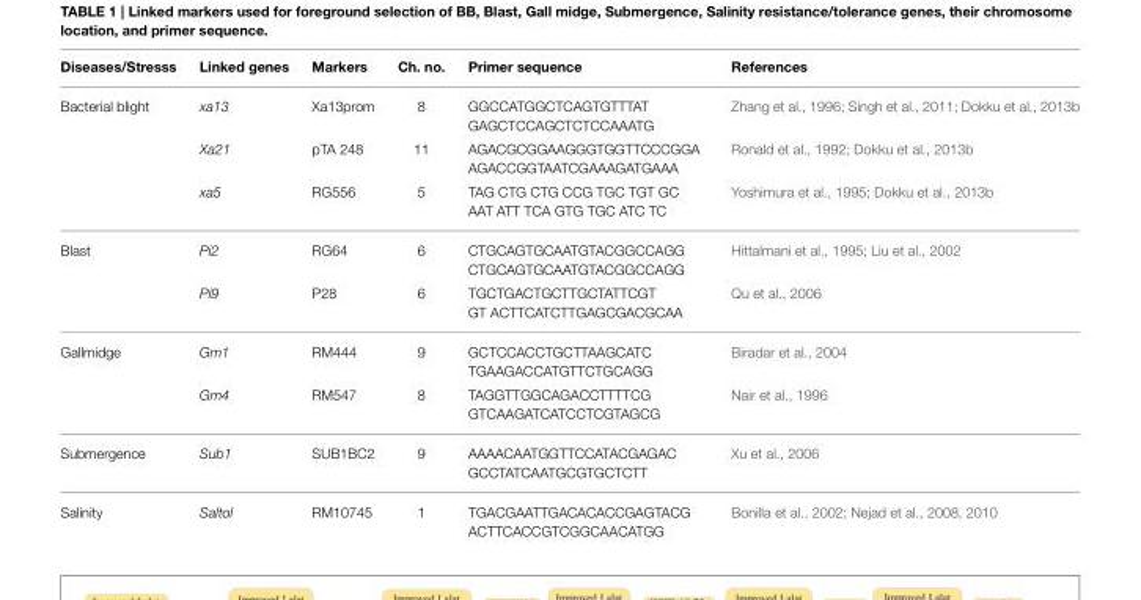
<table><thead><tr><td>Diseases/Stresss</td><td>Linked genes</td><td>Markers</td><td>Ch. no.</td><td>Primer sequence</td><td>References</td></tr></thead><tbody><tr><td rowspan="3">Bacterial blight</td><td>xa13</td><td>Xa13prom</td><td>8</td><td>GGCCATGGCTCAGTGTTTAT GAGCTCCAGCTCTCCAAATG</td><td>Zhang et al., 1996; Singh et al., 2011; Dokku et al., 2013b</td></tr><tr><td>Xa21</td><td>pTA 248</td><td>11</td><td>AGACGCGGAAGGGTGGTTCCCGGA AGACCGGTAATCGAAAGATGAAA</td><td>Ronald et al., 1992; Dokku et al., 2013b</td></tr><tr><td>xa5</td><td>RG556</td><td>5</td><td>TAG CTG CTG CCG TGC TGT GC AAT ATT TCA GTG TGC ATC TC</td><td>Yoshimura et al., 1995; Dokku et al., 2013b</td></tr><tr><td rowspan="2">Blast</td><td>Pi2</td><td>RG64</td><td>6</td><td>CTGCAGTGCAATGTACGGCCAGG CTGCAGTGCAATGTACGGCCAGG</td><td>Hittalmani et al., 1995; Liu et al., 2002</td></tr><tr><td>Pi9</td><td>P28</td><td>6</td><td>TGCTGACTGCTTGCTATTCGT GT ACTTCATCTTGAGCGACGCAA</td><td>Qu et al., 2006</td></tr><tr><td rowspan="2">Gallmidge</td><td>Gm1</td><td>RM444</td><td>9</td><td>GCTCCACCTGCTTAAGCATC TGAAGACCATGTTCTGCAGG</td><td>Biradar et al., 2004</td></tr><tr><td>Gm4</td><td>RM547</td><td>8</td><td>TAGGTTGGCAGACCTTTTCG GTCAAGATCATCCTCGTAGCG</td><td>Nair et al., 1996</td></tr><tr><td>Submergence</td><td>Sub1</td><td>SUB1BC2</td><td>9</td><td>AAAACAATGGTTCCATACGAGAC GCCTATCAATGCGTGCTCTT</td><td>Xu et al., 2006</td></tr><tr><td>Salinity</td><td>Saltol</td><td>RM10745</td><td>1</td><td>TGACGAATTGACACACCGAGTACG ACTTCACCGTCGGCAACATGG</td><td>Bonilla et al., 2002; Nejad et al., 2008, 2010</td></tr></tbody></table>